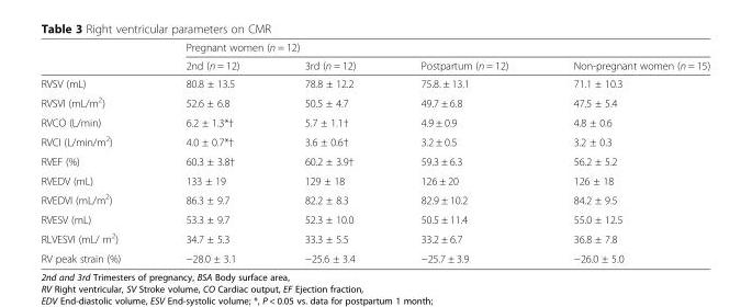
<table><thead><tr><td rowspan="2"></td><td colspan="4">Pregnant women (n = 12)</td></tr><tr><td>2nd (n = 12)</td><td>3rd (n = 12)</td><td>Postpartum (n = 12)</td><td>Non-pregnant women (n = 15)</td></tr></thead><tbody><tr><td>RVSV (mL)</td><td>80.8 ± 13.5</td><td>78.8 ± 12.2</td><td>75.8. ± 13.1</td><td>71.1 ± 10.3</td></tr><tr><td>RVSVI (mL/m<sup>2</sup>)</td><td>52.6 ± 6.8</td><td>50.5 ± 4.7</td><td>49.7 ± 6.8</td><td>47.5 ± 5.4</td></tr><tr><td>RVCO (L/min)</td><td>6.2 ± 1.3*†</td><td>5.7 ± 1.1†</td><td>4.9 ± 0.9</td><td>4.8 ± 0.6</td></tr><tr><td>RVCI (L/min/m<sup>2</sup>)</td><td>4.0 ± 0.7*†</td><td>3.6 ± 0.6†</td><td>3.2 ± 0.5</td><td>3.2 ± 0.3</td></tr><tr><td>RVEF (%)</td><td>60.3 ± 3.8†</td><td>60.2 ± 3.9†</td><td>59.3 ± 6.3</td><td>56.2 ± 5.2</td></tr><tr><td>RVEDV (mL)</td><td>133 ± 19</td><td>129 ± 18</td><td>126 ± 20</td><td>126 ± 18</td></tr><tr><td>RVEDVI (mL/m<sup>2</sup>)</td><td>86.3 ± 9.7</td><td>82.2 ± 8.3</td><td>82.9 ± 10.2</td><td>84.2 ± 9.5</td></tr><tr><td>RVESV (mL)</td><td>53.3 ± 9.7</td><td>52.3 ± 10.0</td><td>50.5 ± 11.4</td><td>55.0 ± 12.5</td></tr><tr><td>RLVESVI (mL/ m<sup>2</sup>)</td><td>34.7 ± 5.3</td><td>33.3 ± 5.5</td><td>33.2 ± 6.7</td><td>36.8 ± 7.8</td></tr><tr><td>RV peak strain (%)</td><td>−28.0 ± 3.1</td><td>−25.6 ± 3.4</td><td>−25.7 ± 3.9</td><td>−26.0 ± 5.0</td></tr></tbody></table>